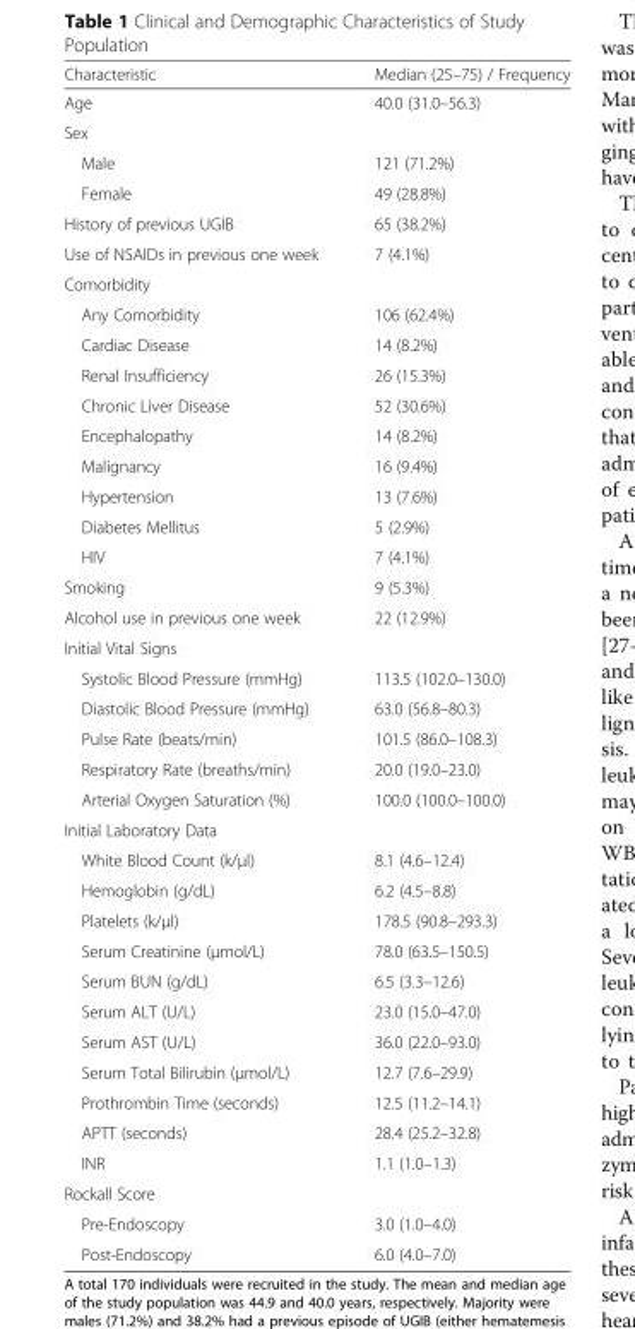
<table><thead><tr><td>Characteristic</td><td>Median (25–75) / Frequency</td></tr></thead><tbody><tr><td>Age</td><td>40.0 (31.0–56.3)</td></tr><tr><td colspan="2">Sex</td></tr><tr><td>Male</td><td>121 (71.2%)</td></tr><tr><td>Female</td><td>49 (28.8%)</td></tr><tr><td>History of previous UGIB</td><td>65 (38.2%)</td></tr><tr><td>Use of NSAIDs in previous one week</td><td>7 (4.1%)</td></tr><tr><td colspan="2">Comorbidity</td></tr><tr><td>Any Comorbidity</td><td>106 (62.4%)</td></tr><tr><td>Cardiac Disease</td><td>14 (8.2%)</td></tr><tr><td>Renal Insufficiency</td><td>26 (15.3%)</td></tr><tr><td>Chronic Liver Disease</td><td>52 (30.6%)</td></tr><tr><td>Encephalopathy</td><td>14 (8.2%)</td></tr><tr><td>Malignancy</td><td>16 (9.4%)</td></tr><tr><td>Hypertension</td><td>13 (7.6%)</td></tr><tr><td>Diabetes Mellitus</td><td>5 (2.9%)</td></tr><tr><td>HIV</td><td>7 (4.1%)</td></tr><tr><td>Smoking</td><td>9 (5.3%)</td></tr><tr><td>Alcohol use in previous one week</td><td>22 (12.9%)</td></tr><tr><td colspan="2">Initial Vital Signs</td></tr><tr><td>Systolic Blood Pressure (mmHg)</td><td>113.5 (102.0–130.0)</td></tr><tr><td>Diastolic Blood Pressure (mmHg)</td><td>63.0 (56.8–80.3)</td></tr><tr><td>Pulse Rate (beats/min)</td><td>101.5 (86.0–108.3)</td></tr><tr><td>Respiratory Rate (breaths/min)</td><td>20.0 (19.0–23.0)</td></tr><tr><td>Arterial Oxygen Saturation (%)</td><td>100.0 (100.0–100.0)</td></tr><tr><td colspan="2">Initial Laboratory Data</td></tr><tr><td>White Blood Count (k/μl)</td><td>8.1 (4.6–12.4)</td></tr><tr><td>Hemoglobin (g/dL)</td><td>6.2 (4.5–8.8)</td></tr><tr><td>Platelets (k/μl)</td><td>178.5 (90.8–293.3)</td></tr><tr><td>Serum Creatinine (μmol/L)</td><td>78.0 (63.5–150.5)</td></tr><tr><td>Serum BUN (g/dL)</td><td>6.5 (3.3–12.6)</td></tr><tr><td>Serum ALT (U/L)</td><td>23.0 (15.0–47.0)</td></tr><tr><td>Serum AST (U/L)</td><td>36.0 (22.0–93.0)</td></tr><tr><td>Serum Total Bilirubin (μmol/L)</td><td>12.7 (7.6–29.9)</td></tr><tr><td>Prothrombin Time (seconds)</td><td>12.5 (11.2–14.1)</td></tr><tr><td>APTT (seconds)</td><td>28.4 (25.2–32.8)</td></tr><tr><td>INR</td><td>1.1 (1.0–1.3)</td></tr><tr><td colspan="2">Rockall Score</td></tr><tr><td>Pre-Endoscopy</td><td>3.0 (1.0–4.0)</td></tr><tr><td>Post-Endoscopy</td><td>6.0 (4.0–7.0)</td></tr></tbody></table>